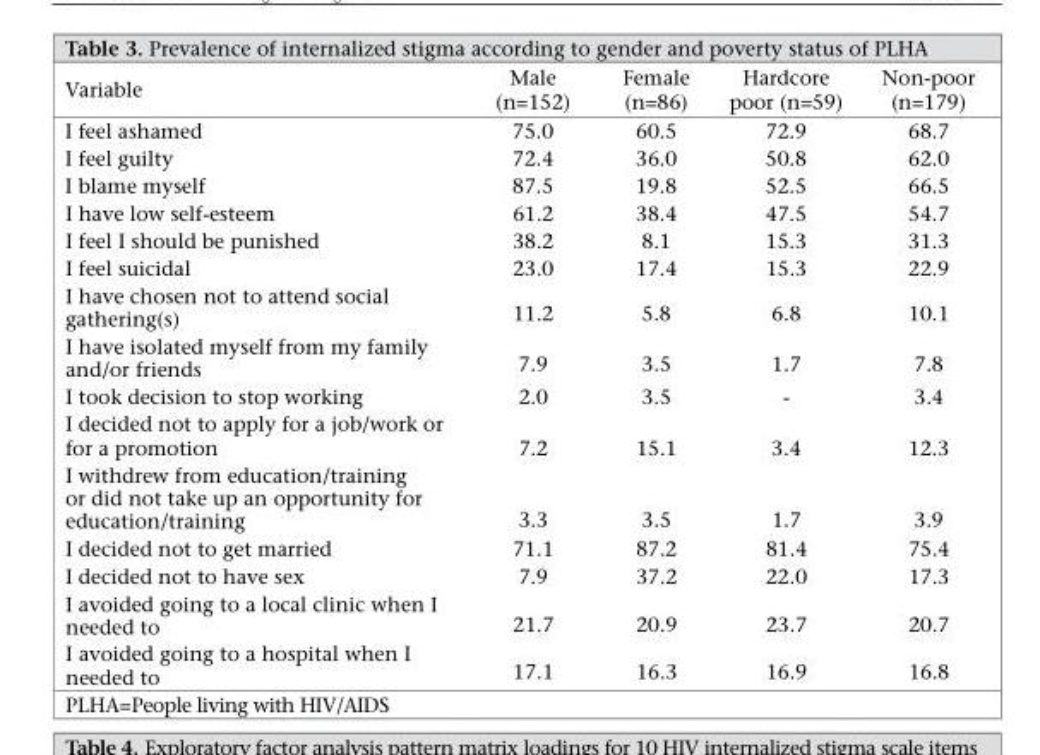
<table><thead><tr><td>Variable</td><td>Male (n=152)</td><td>Female (n=86)</td><td>Hardcore poor (n=59)</td><td>Non-poor (n=179)</td></tr></thead><tbody><tr><td>I feel ashamed</td><td>75.0</td><td>60.5</td><td>72.9</td><td>68.7</td></tr><tr><td>I feel guilty</td><td>72.4</td><td>36.0</td><td>50.8</td><td>62.0</td></tr><tr><td>I blame myself</td><td>87.5</td><td>19.8</td><td>52.5</td><td>66.5</td></tr><tr><td>I have low self-esteem</td><td>61.2</td><td>38.4</td><td>47.5</td><td>54.7</td></tr><tr><td>I feel I should be punished</td><td>38.2</td><td>8.1</td><td>15.3</td><td>31.3</td></tr><tr><td>I feel suicidal</td><td>23.0</td><td>17.4</td><td>15.3</td><td>22.9</td></tr><tr><td>I have chosen not to attend social gathering(s)</td><td>11.2</td><td>5.8</td><td>6.8</td><td>10.1</td></tr><tr><td>I have isolated myself from my family and/or friends</td><td>7.9</td><td>3.5</td><td>1.7</td><td>7.8</td></tr><tr><td>I took decision to stop working</td><td>2.0</td><td>3.5</td><td>-</td><td>3.4</td></tr><tr><td>I decided not to apply for a job/work or for a promotion</td><td>7.2</td><td>15.1</td><td>3.4</td><td>12.3</td></tr><tr><td>I withdrew from education/training or did not take up an opportunity for education/training</td><td>3.3</td><td>3.5</td><td>1.7</td><td>3.9</td></tr><tr><td>I decided not to get married</td><td>71.1</td><td>87.2</td><td>81.4</td><td>75.4</td></tr><tr><td>I decided not to have sex</td><td>7.9</td><td>37.2</td><td>22.0</td><td>17.3</td></tr><tr><td>I avoided going to a local clinic when I needed to</td><td>21.7</td><td>20.9</td><td>23.7</td><td>20.7</td></tr><tr><td>I avoided going to a hospital when I needed to</td><td>17.1</td><td>16.3</td><td>16.9</td><td>16.8</td></tr></tbody></table>